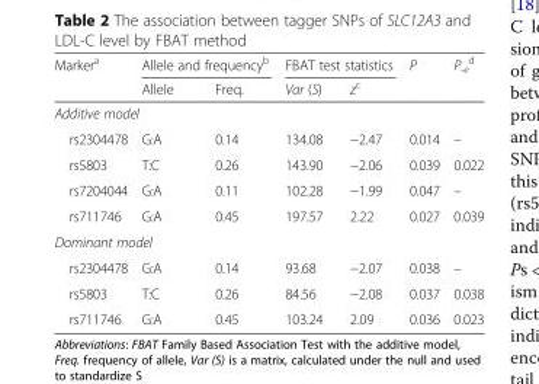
<table><thead><tr><td rowspan="2">Marker<sup>a</sup></td><td colspan="2">Allele and frequency<sup>b</sup></td><td colspan="2">FBAT test statistics</td><td rowspan="2">P</td><td rowspan="2">P<sub>-e</sub> <sup>d</sup></td></tr><tr><td>Allele</td><td>Freq.</td><td>Var (S)</td><td>z<sup>c</sup></td></tr></thead><tbody><tr><td colspan="7">Additive model</td></tr><tr><td>rs2304478</td><td>G:A</td><td>0.14</td><td>134.08</td><td>−2.47</td><td>0.014</td><td>–</td></tr><tr><td>rs5803</td><td>T:C</td><td>0.26</td><td>143.90</td><td>−2.06</td><td>0.039</td><td>0.022</td></tr><tr><td>rs7204044</td><td>G:A</td><td>0.11</td><td>102.28</td><td>−1.99</td><td>0.047</td><td>–</td></tr><tr><td>rs711746</td><td>G:A</td><td>0.45</td><td>197.57</td><td>2.22</td><td>0.027</td><td>0.039</td></tr><tr><td colspan="7">Dominant model</td></tr><tr><td>rs2304478</td><td>G:A</td><td>0.14</td><td>93.68</td><td>−2.07</td><td>0.038</td><td>–</td></tr><tr><td>rs5803</td><td>T:C</td><td>0.26</td><td>84.56</td><td>−2.08</td><td>0.037</td><td>0.038</td></tr><tr><td>rs711746</td><td>G:A</td><td>0.45</td><td>103.24</td><td>2.09</td><td>0.036</td><td>0.023</td></tr></tbody></table>